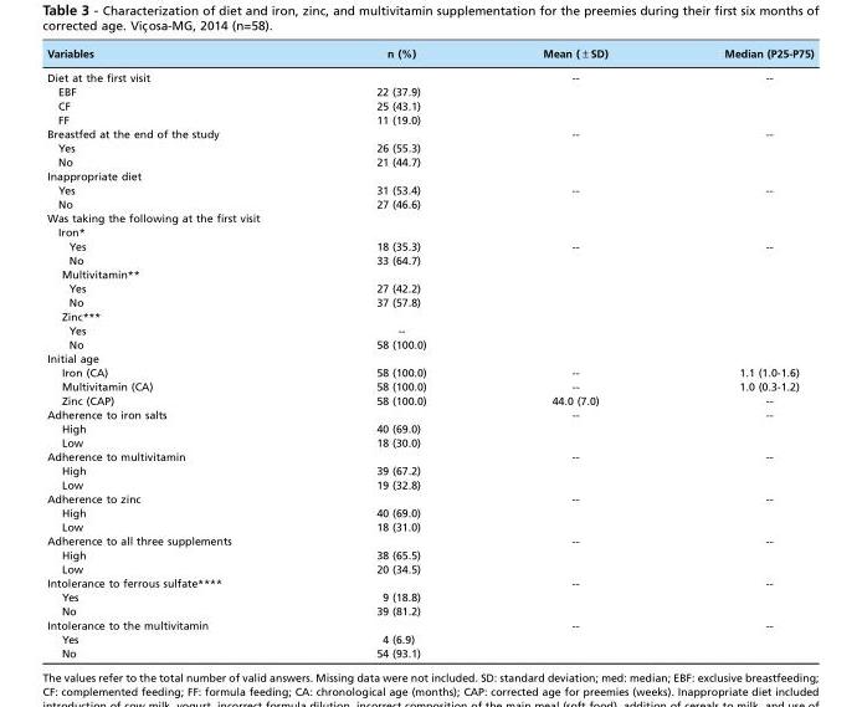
<table><thead><tr><td>Variables</td><td>n (%)</td><td>Mean (±SD)</td><td>Median (P25-P75)</td></tr></thead><tbody><tr><td>Diet at the first visit</td><td></td><td>--</td><td>--</td></tr><tr><td>EBF</td><td>22 (37.9)</td><td></td><td></td></tr><tr><td>CF</td><td>25 (43.1)</td><td></td><td></td></tr><tr><td>FF</td><td>11 (19.0)</td><td></td><td></td></tr><tr><td>Breastfed at the end of the study</td><td></td><td>--</td><td>--</td></tr><tr><td>Yes</td><td>26 (55.3)</td><td></td><td></td></tr><tr><td>No</td><td>21 (44.7)</td><td></td><td></td></tr><tr><td colspan="4">Inappropriate diet</td></tr><tr><td>Yes</td><td>31 (53.4)</td><td>--</td><td>--</td></tr><tr><td>No</td><td>27 (46.6)</td><td></td><td></td></tr><tr><td colspan="4">Was taking the following at the first visit</td></tr><tr><td colspan="4">Iron*</td></tr><tr><td>Yes</td><td>18 (35.3)</td><td>--</td><td>--</td></tr><tr><td>No</td><td>33 (64.7)</td><td></td><td></td></tr><tr><td colspan="4">Multivitamin**</td></tr><tr><td>Yes</td><td>27 (42.2)</td><td></td><td></td></tr><tr><td>No</td><td>37 (57.8)</td><td></td><td></td></tr><tr><td colspan="4">Zinc***</td></tr><tr><td>Yes</td><td>--</td><td></td><td></td></tr><tr><td>No</td><td>58 (100.0)</td><td></td><td></td></tr><tr><td colspan="4">Initial age</td></tr><tr><td>Iron (CA)</td><td>58 (100.0)</td><td>--</td><td>1.1 (1.0-1.6)</td></tr><tr><td>Multivitamin (CA)</td><td>58 (100.0)</td><td>--</td><td>1.0 (0.3-1.2)</td></tr><tr><td>Zinc (CAP)</td><td>58 (100.0)</td><td>44.0 (7.0)</td><td>--</td></tr><tr><td>Adherence to iron salts</td><td></td><td>--</td><td>--</td></tr><tr><td>High</td><td>40 (69.0)</td><td></td><td></td></tr><tr><td>Low</td><td>18 (30.0)</td><td></td><td></td></tr><tr><td>Adherence to multivitamin</td><td></td><td>--</td><td>--</td></tr><tr><td>High</td><td>39 (67.2)</td><td></td><td></td></tr><tr><td>Low</td><td>19 (32.8)</td><td></td><td></td></tr><tr><td>Adherence to zinc</td><td></td><td>--</td><td>--</td></tr><tr><td>High</td><td>40 (69.0)</td><td></td><td></td></tr><tr><td>Low</td><td>18 (31.0)</td><td></td><td></td></tr><tr><td>Adherence to all three supplements</td><td></td><td>--</td><td>--</td></tr><tr><td>High</td><td>38 (65.5)</td><td></td><td></td></tr><tr><td>Low</td><td>20 (34.5)</td><td></td><td></td></tr><tr><td>Intolerance to ferrous sulfate****</td><td></td><td>--</td><td>--</td></tr><tr><td>Yes</td><td>9 (18.8)</td><td></td><td></td></tr><tr><td>No</td><td>39 (81.2)</td><td></td><td></td></tr><tr><td>Intolerance to the multivitamin</td><td></td><td>--</td><td>--</td></tr><tr><td>Yes</td><td>4 (6.9)</td><td></td><td></td></tr><tr><td>No</td><td>54 (93.1)</td><td></td><td></td></tr></tbody></table>